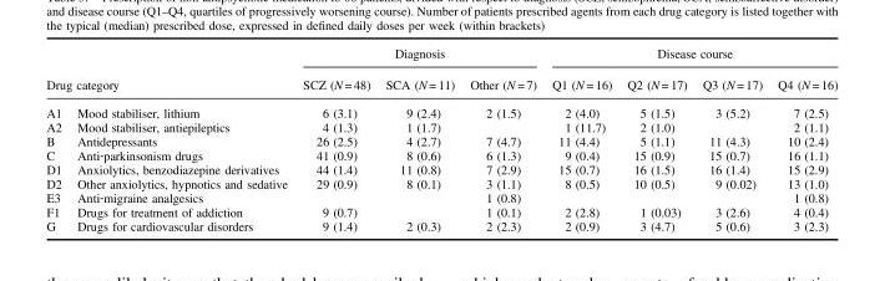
<table><thead><tr><td></td><td></td><td colspan="3">Diagnosis</td><td colspan="4">Disease course</td></tr><tr><td colspan="2">Drug category</td><td>SCZ (N = 48)</td><td>SCA (N = 11)</td><td>Other (N = 7)</td><td>Q1 (N = 16)</td><td>Q2 (N = 17)</td><td>Q3 (N = 17)</td><td>Q4 (N = 16)</td></tr></thead><tbody><tr><td>A1</td><td>Mood stabiliser, lithium</td><td>6 (3.1)</td><td>9 (2.4)</td><td>2 (1.5)</td><td>2 (4.0)</td><td>5 (1.5)</td><td>3 (5.2)</td><td>7 (2.5)</td></tr><tr><td>A2</td><td>Mood stabiliser, antiepileptics</td><td>4 (1.3)</td><td>1 (1.7)</td><td></td><td>1 (11.7)</td><td>2 (1.0)</td><td></td><td>2 (1.1)</td></tr><tr><td>B</td><td>Antidepressants</td><td>26 (2.5)</td><td>4 (2.7)</td><td>7 (4.7)</td><td>11 (4.4)</td><td>5 (1.1)</td><td>11 (4.3)</td><td>10 (2.4)</td></tr><tr><td>C</td><td>Anti‐parkinsonism drugs</td><td>41 (0.9)</td><td>8 (0.6)</td><td>6 (1.3)</td><td>9 (0.4)</td><td>15 (0.9)</td><td>15 (0.7)</td><td>16 (1.1)</td></tr><tr><td>D1</td><td>Anxiolytics, benzodiazepine derivatives</td><td>44 (1.4)</td><td>11 (0.8)</td><td>7 (2.9)</td><td>15 (0.7)</td><td>16 (1.5)</td><td>16 (1.4)</td><td>15 (2.9)</td></tr><tr><td>D2</td><td>Other anxiolytics, hypnotics and sedative</td><td>29 (0.9)</td><td>8 (0.1)</td><td>3 (1.1)</td><td>8 (0.5)</td><td>10 (0.5)</td><td>9 (0.02)</td><td>13 (1.0)</td></tr><tr><td>E3</td><td>Anti‐migraine analgesics</td><td></td><td></td><td>1 (0.8)</td><td></td><td></td><td></td><td>1 (0.8)</td></tr><tr><td>F1</td><td>Drugs for treatment of addiction</td><td>9 (0.7)</td><td></td><td>1 (0.1)</td><td>2 (2.8)</td><td>1 (0.03)</td><td>3 (2.6)</td><td>4 (0.4)</td></tr><tr><td>G</td><td>Drugs for cardiovascular disorders</td><td>9 (1.4)</td><td>2 (0.3)</td><td>2 (2.3)</td><td>2 (0.9)</td><td>3 (4.7)</td><td>5 (0.6)</td><td>3 (2.3)</td></tr></tbody></table>